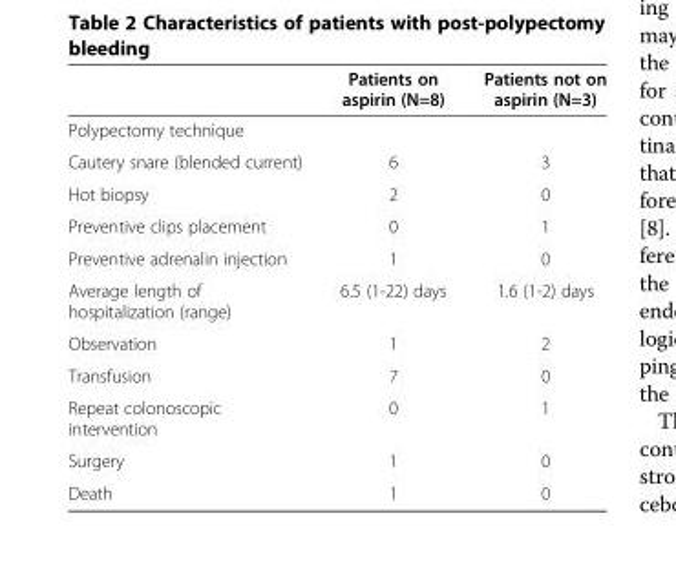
<table><thead><tr><td></td><td>Patients on aspirin (N=8)</td><td>Patients not on aspirin (N=3)</td></tr></thead><tbody><tr><td colspan="3">Polypectomy technique</td></tr><tr><td>Cautery snare (blended current)</td><td>6</td><td>3</td></tr><tr><td>Hot biopsy</td><td>2</td><td>0</td></tr><tr><td>Preventive clips placement</td><td>0</td><td>1</td></tr><tr><td>Preventive adrenalin injection</td><td>1</td><td>0</td></tr><tr><td>Average length of hospitalization (range)</td><td>6.5 (1-22) days</td><td>1.6 (1-2) days</td></tr><tr><td>Observation</td><td>1</td><td>2</td></tr><tr><td>Transfusion</td><td>7</td><td>0</td></tr><tr><td>Repeat colonoscopic intervention</td><td>0</td><td>1</td></tr><tr><td>Surgery</td><td>1</td><td>0</td></tr><tr><td>Death</td><td>1</td><td>0</td></tr></tbody></table>